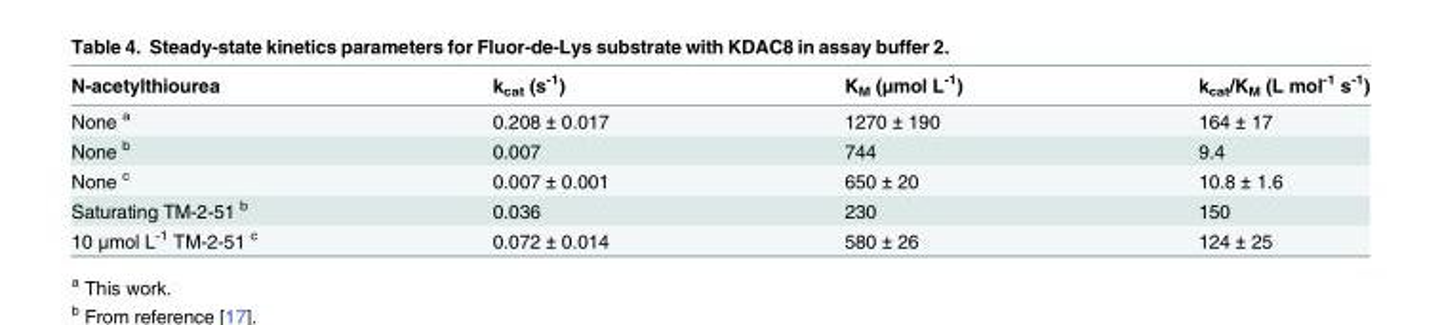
<table><thead><tr><td>N-acetylthiourea</td><td>k<sub>cat</sub> (s<sup>-1</sup>)</td><td>K<sub>M</sub> (μmol L<sup>-1</sup>)</td><td>k<sub>cat</sub>/K<sub>M</sub> (L mol<sup>-1</sup> s<sup>-1</sup>)</td></tr></thead><tbody><tr><td>None <sup>a</sup></td><td>0.208 ± 0.017</td><td>1270 ± 190</td><td>164 ± 17</td></tr><tr><td>None <sup>b</sup></td><td>0.007</td><td>744</td><td>9.4</td></tr><tr><td>None <sup>c</sup></td><td>0.007 ± 0.001</td><td>650 ± 20</td><td>10.8 ± 1.6</td></tr><tr><td>Saturating TM-2-51 <sup>b</sup></td><td>0.036</td><td>230</td><td>150</td></tr><tr><td>10 μmol L<sup>-1</sup> TM-2-51 <sup>c</sup></td><td>0.072 ± 0.014</td><td>580 ± 26</td><td>124 ± 25</td></tr></tbody></table>